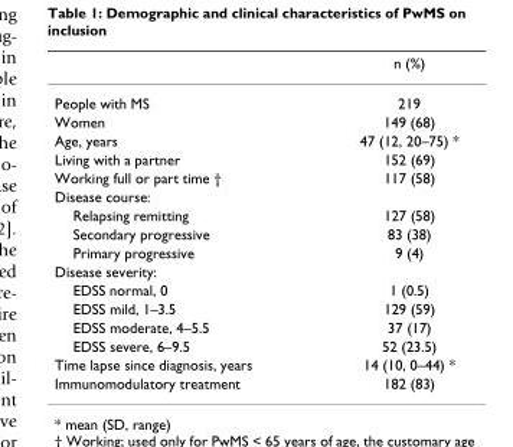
<table><thead><tr><td></td><td>n (%)</td></tr></thead><tbody><tr><td>People with MS</td><td>219</td></tr><tr><td>Women</td><td>149 (68)</td></tr><tr><td>Age, years</td><td>47 (12, 20–75) *</td></tr><tr><td>Living with a partner</td><td>152 (69)</td></tr><tr><td>Working full or part time †</td><td>117 (58)</td></tr><tr><td colspan="2">Disease course:</td></tr><tr><td>Relapsing remitting</td><td>127 (58)</td></tr><tr><td>Secondary progressive</td><td>83 (38)</td></tr><tr><td>Primary progressive</td><td>9 (4)</td></tr><tr><td colspan="2">Disease severity:</td></tr><tr><td>EDSS normal, 0</td><td>1 (0.5)</td></tr><tr><td>EDSS mild, 1–3.5</td><td>129 (59)</td></tr><tr><td>EDSS moderate, 4–5.5</td><td>37 (17)</td></tr><tr><td>EDSS severe, 6–9.5</td><td>52 (23.5)</td></tr><tr><td>Time lapse since diagnosis, years</td><td>14 (10, 0–44) *</td></tr><tr><td>Immunomodulatory treatment</td><td>182 (83)</td></tr></tbody></table>